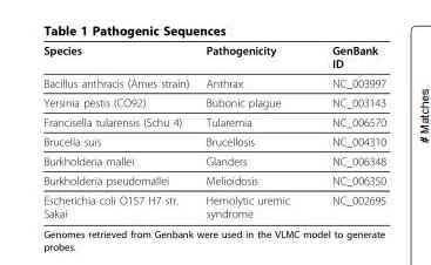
<table><thead><tr><td>Species</td><td>Pathogenicity</td><td>GenBank ID</td></tr></thead><tbody><tr><td>Bacillus anthracis (Ames strain)</td><td>Anthrax</td><td>NC_003997</td></tr><tr><td>Yersinia pestis (CO92)</td><td>Bubonic plague</td><td>NC_003143</td></tr><tr><td>Francisella tularensis (Schu 4)</td><td>Tularemia</td><td>NC_006570</td></tr><tr><td>Brucella suis</td><td>Brucellosis</td><td>NC_004310</td></tr><tr><td>Burkholderia mallei</td><td>Glanders</td><td>NC_006348</td></tr><tr><td>Burkholderia pseudomallei</td><td>Melioidosis</td><td>NC_006350</td></tr><tr><td>Escherichia coli O157 H7 str. Sakai</td><td>Hemolytic uremic syndrome</td><td>NC_002695</td></tr></tbody></table>